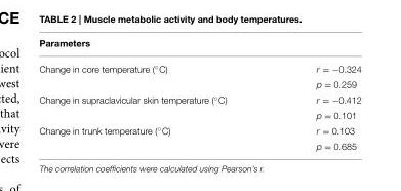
<table><thead><tr><td>Parameters</td><td></td></tr></thead><tbody><tr><td rowspan="2">Change in core temperature (◦C)</td><td>r = −0.324</td></tr><tr><td>p = 0.259</td></tr><tr><td rowspan="2">Change in supraclavicular skin temperature (◦C)</td><td>r = −0.412</td></tr><tr><td>p = 0.101</td></tr><tr><td rowspan="2">Change in trunk temperature (◦C)</td><td>r = 0.103</td></tr><tr><td>p = 0.685</td></tr></tbody></table>